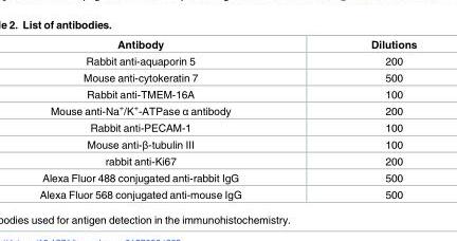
<table><thead><tr><td>Antibody</td><td>Dilutions</td></tr></thead><tbody><tr><td>Rabbit anti-aquaporin 5</td><td>200</td></tr><tr><td>Mouse anti-cytokeratin 7</td><td>500</td></tr><tr><td>Rabbit anti-TMEM-16A</td><td>100</td></tr><tr><td>Mouse anti-Na<sup>+</sup>/K<sup>+</sup>-ATPase α antibody</td><td>200</td></tr><tr><td>Rabbit anti-PECAM-1</td><td>100</td></tr><tr><td>Mouse anti-β-tubulin III</td><td>100</td></tr><tr><td>rabbit anti-Ki67</td><td>200</td></tr><tr><td>Alexa Fluor 488 conjugated anti-rabbit IgG</td><td>500</td></tr><tr><td>Alexa Fluor 568 conjugated anti-mouse IgG</td><td>500</td></tr></tbody></table>